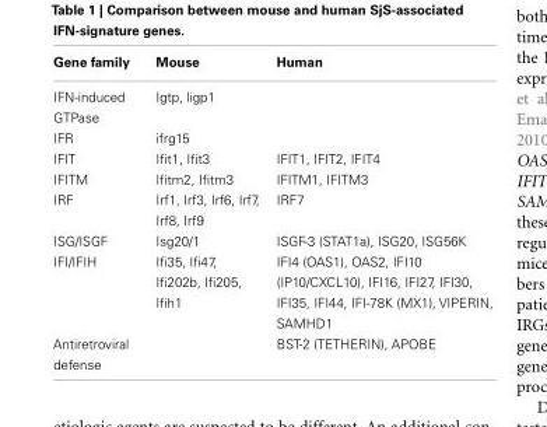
<table><thead><tr><td>Gene family</td><td>Mouse</td><td>Human</td></tr></thead><tbody><tr><td>IFN-induced GTPase</td><td>Igtp, ligp1</td><td></td></tr><tr><td>IFR</td><td>ifrg15</td><td></td></tr><tr><td>IFIT</td><td>Ifit1, Ifit3</td><td>IFIT1, IFIT2, IFIT4</td></tr><tr><td>IFITM</td><td>Ifitm2, Ifitm3</td><td>IFITM1, IFITM3</td></tr><tr><td>IRF</td><td>Irf1, Irf3, Irf6, Irf7, Irf8, Irf9</td><td>IRF7</td></tr><tr><td>ISG/ISGF</td><td>Isg20/1</td><td>ISGF-3 (STAT1a), ISG20, ISG56K</td></tr><tr><td>IFI/IFIH</td><td>Ifi35, Ifi47, Ifi202b, Ifi205, Ifih1</td><td>IFI4 (OAS1), OAS2, IFI10 (IP10/CXCL10), IFI16, IFI27, IFI30, IFI35, IFI44, IFI-78K (MX1), VIPERIN, SAMHD1</td></tr><tr><td>Antiretroviral defense</td><td></td><td>BST-2 (TETHERIN), APOBE</td></tr></tbody></table>